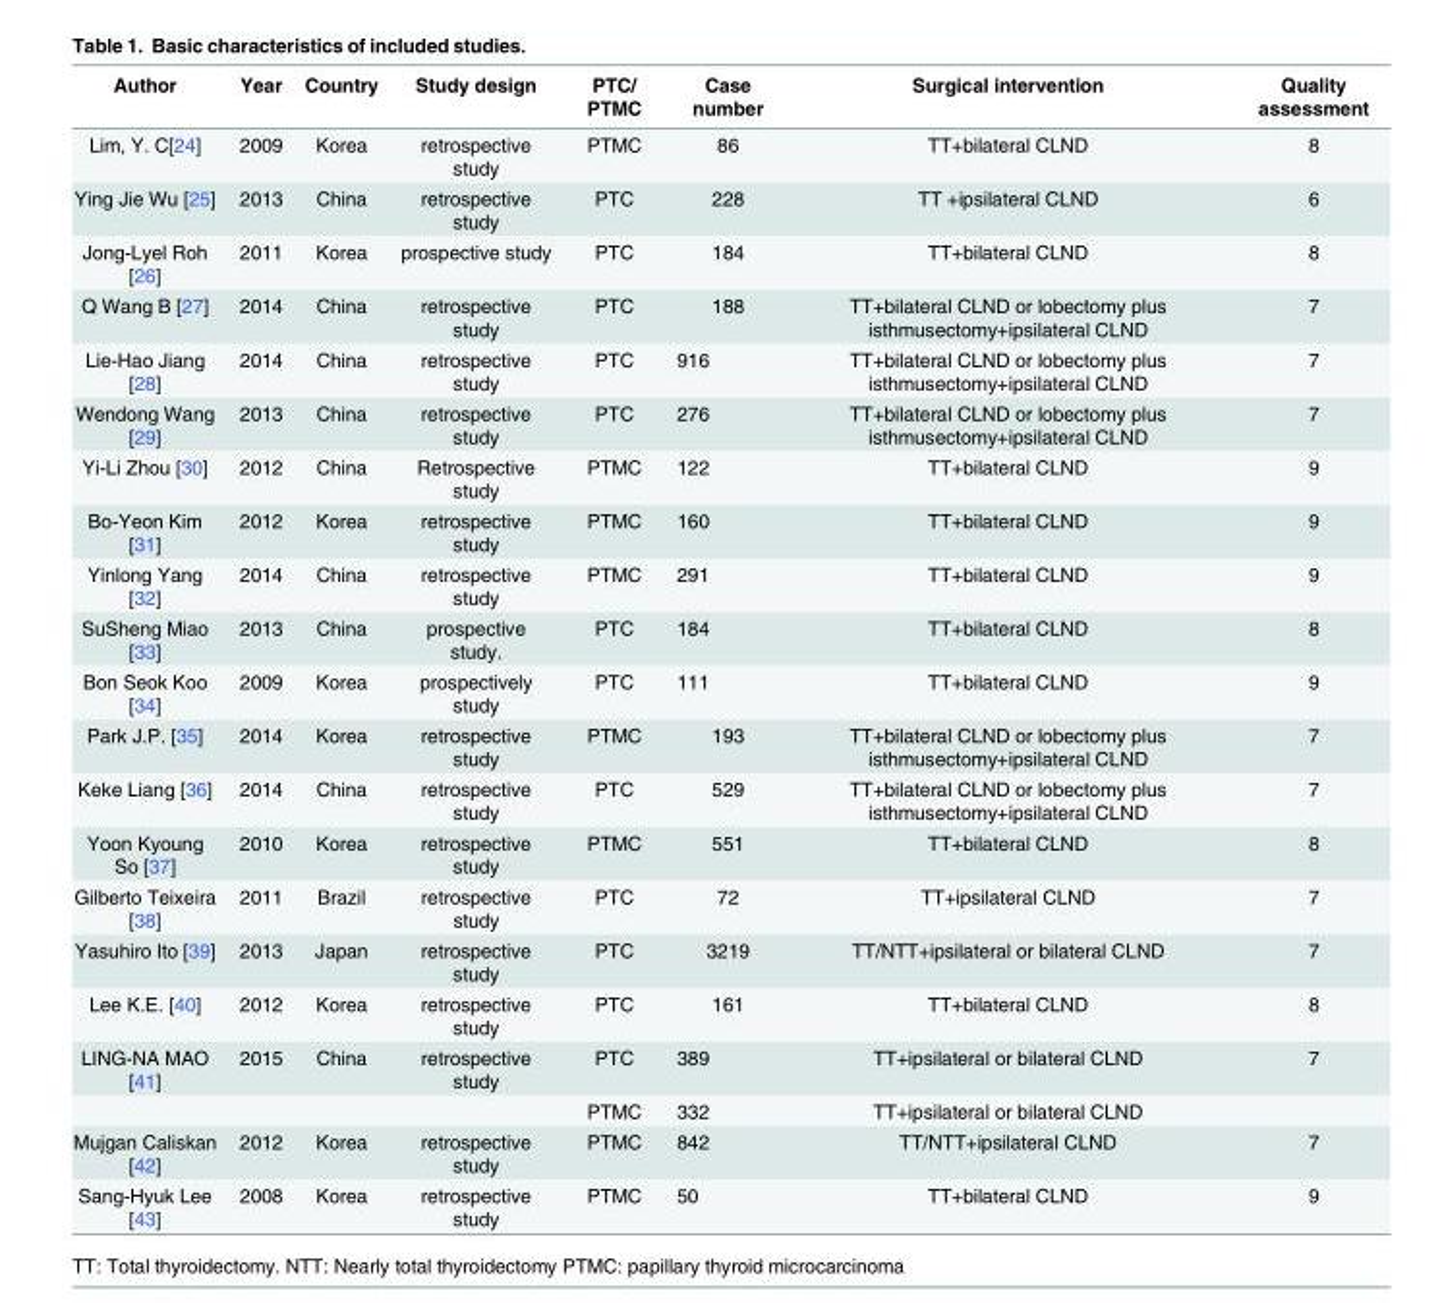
<table><thead><tr><td>Author</td><td>Year</td><td>Country</td><td>Study design</td><td>PTC/ PTMC</td><td>Case number</td><td>Surgical intervention</td><td>Quality assessment</td></tr></thead><tbody><tr><td>Lim, Y. C[24]</td><td>2009</td><td>Korea</td><td>retrospective study</td><td>PTMC</td><td>86</td><td>TT+bilateral CLND</td><td>8</td></tr><tr><td>Ying Jie Wu [25]</td><td>2013</td><td>China</td><td>retrospective study</td><td>PTC</td><td>228</td><td>TT +ipsilateral CLND</td><td>6</td></tr><tr><td>Jong-Lyel Roh [26]</td><td>2011</td><td>Korea</td><td>prospective study</td><td>PTC</td><td>184</td><td>TT+bilateral CLND</td><td>8</td></tr><tr><td>Q Wang B [27]</td><td>2014</td><td>China</td><td>retrospective study</td><td>PTC</td><td>188</td><td>TT+bilateral CLND or lobectomy plus isthmusectomy+ipsilateral CLND</td><td>7</td></tr><tr><td>Lie-Hao Jiang [28]</td><td>2014</td><td>China</td><td>retrospective study</td><td>PTC</td><td>916</td><td>TT+bilateral CLND or lobectomy plus isthmusectomy+ipsilateral CLND</td><td>7</td></tr><tr><td>Wendong Wang [29]</td><td>2013</td><td>China</td><td>retrospective study</td><td>PTC</td><td>276</td><td>TT+bilateral CLND or lobectomy plus isthmusectomy+ipsilateral CLND</td><td>7</td></tr><tr><td>Yi-Li Zhou [30]</td><td>2012</td><td>China</td><td>Retrospective study</td><td>PTMC</td><td>122</td><td>TT+bilateral CLND</td><td>9</td></tr><tr><td>Bo-Yeon Kim [31]</td><td>2012</td><td>Korea</td><td>retrospective study</td><td>PTMC</td><td>160</td><td>TT+bilateral CLND</td><td>9</td></tr><tr><td>Yinlong Yang [32]</td><td>2014</td><td>China</td><td>retrospective study</td><td>PTMC</td><td>291</td><td>TT+bilateral CLND</td><td>9</td></tr><tr><td>SuSheng Miao [33]</td><td>2013</td><td>China</td><td>prospective study.</td><td>PTC</td><td>184</td><td>TT+bilateral CLND</td><td>8</td></tr><tr><td>Bon Seok Koo [34]</td><td>2009</td><td>Korea</td><td>prospectively study</td><td>PTC</td><td>111</td><td>TT+bilateral CLND</td><td>9</td></tr><tr><td>Park J.P. [35]</td><td>2014</td><td>Korea</td><td>retrospective study</td><td>PTMC</td><td>193</td><td>TT+bilateral CLND or lobectomy plus isthmusectomy+ipsilateral CLND</td><td>7</td></tr><tr><td>Keke Liang [36]</td><td>2014</td><td>China</td><td>retrospective study</td><td>PTC</td><td>529</td><td>TT+bilateral CLND or lobectomy plus isthmusectomy+ipsilateral CLND</td><td>7</td></tr><tr><td>Yoon Kyoung So [37]</td><td>2010</td><td>Korea</td><td>retrospective study</td><td>PTMC</td><td>551</td><td>TT+bilateral CLND</td><td>8</td></tr><tr><td>Gilberto Teixeira [38]</td><td>2011</td><td>Brazil</td><td>retrospective study</td><td>PTC</td><td>72</td><td>TT+ipsilateral CLND</td><td>7</td></tr><tr><td>Yasuhiro Ito [39]</td><td>2013</td><td>Japan</td><td>retrospective study</td><td>PTC</td><td>3219</td><td>TT/NTT+ipsilateral or bilateral CLND</td><td>7</td></tr><tr><td>Lee K.E. [40]</td><td>2012</td><td>Korea</td><td>retrospective study</td><td>PTC</td><td>161</td><td>TT+bilateral CLND</td><td>8</td></tr><tr><td rowspan="2">LING-NA MAO [41]</td><td>2015</td><td>China</td><td>retrospective study</td><td>PTC</td><td>389</td><td>TT+ipsilateral or bilateral CLND</td><td>7</td></tr><tr><td></td><td></td><td></td><td>PTMC</td><td>332</td><td>TT+ipsilateral or bilateral CLND</td><td></td></tr><tr><td>Mujgan Caliskan [42]</td><td>2012</td><td>Korea</td><td>retrospective study</td><td>PTMC</td><td>842</td><td>TT/NTT+ipsilateral CLND</td><td>7</td></tr><tr><td>Sang-Hyuk Lee [43]</td><td>2008</td><td>Korea</td><td>retrospective study</td><td>PTMC</td><td>50</td><td>TT+bilateral CLND</td><td>9</td></tr></tbody></table>